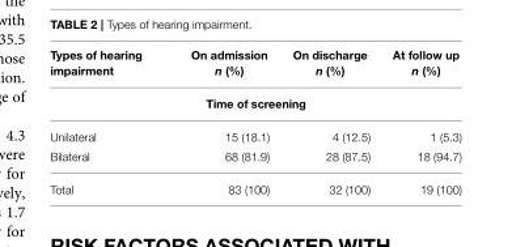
<table><thead><tr><td>Types of hearing impairment</td><td>On admission n (%)</td><td>On discharge n (%)</td><td>At follow up n (%)</td></tr></thead><tbody><tr><td colspan="4">Time of screening</td></tr><tr><td>Unilateral</td><td>15 (18.1)</td><td>4 (12.5)</td><td>1 (5.3)</td></tr><tr><td>Bilateral</td><td>68 (81.9)</td><td>28 (87.5)</td><td>18 (94.7)</td></tr><tr><td>Total</td><td>83 (100)</td><td>32 (100)</td><td>19 (100)</td></tr></tbody></table>